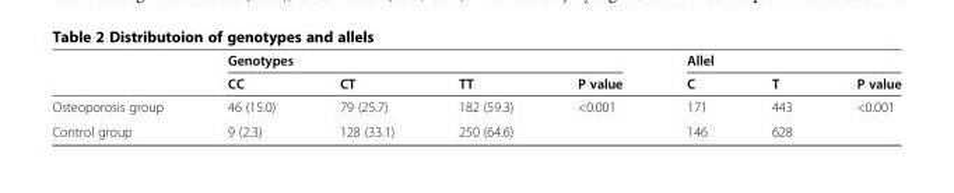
<table><thead><tr><td rowspan="2"></td><td colspan="4">Genotypes</td><td colspan="3">Allel</td></tr><tr><td>CC</td><td>CT</td><td>TT</td><td>P value</td><td>C</td><td>T</td><td>P value</td></tr></thead><tbody><tr><td>Osteoporosis group</td><td>46 (15.0)</td><td>79 (25.7)</td><td>182 (59.3)</td><td rowspan="2">&lt;0.001</td><td>171</td><td>443</td><td rowspan="2">&lt;0.001</td></tr><tr><td>Control group</td><td>9 (2.3)</td><td>128 (33.1)</td><td>250 (64.6)</td><td>146</td><td>628</td></tr></tbody></table>